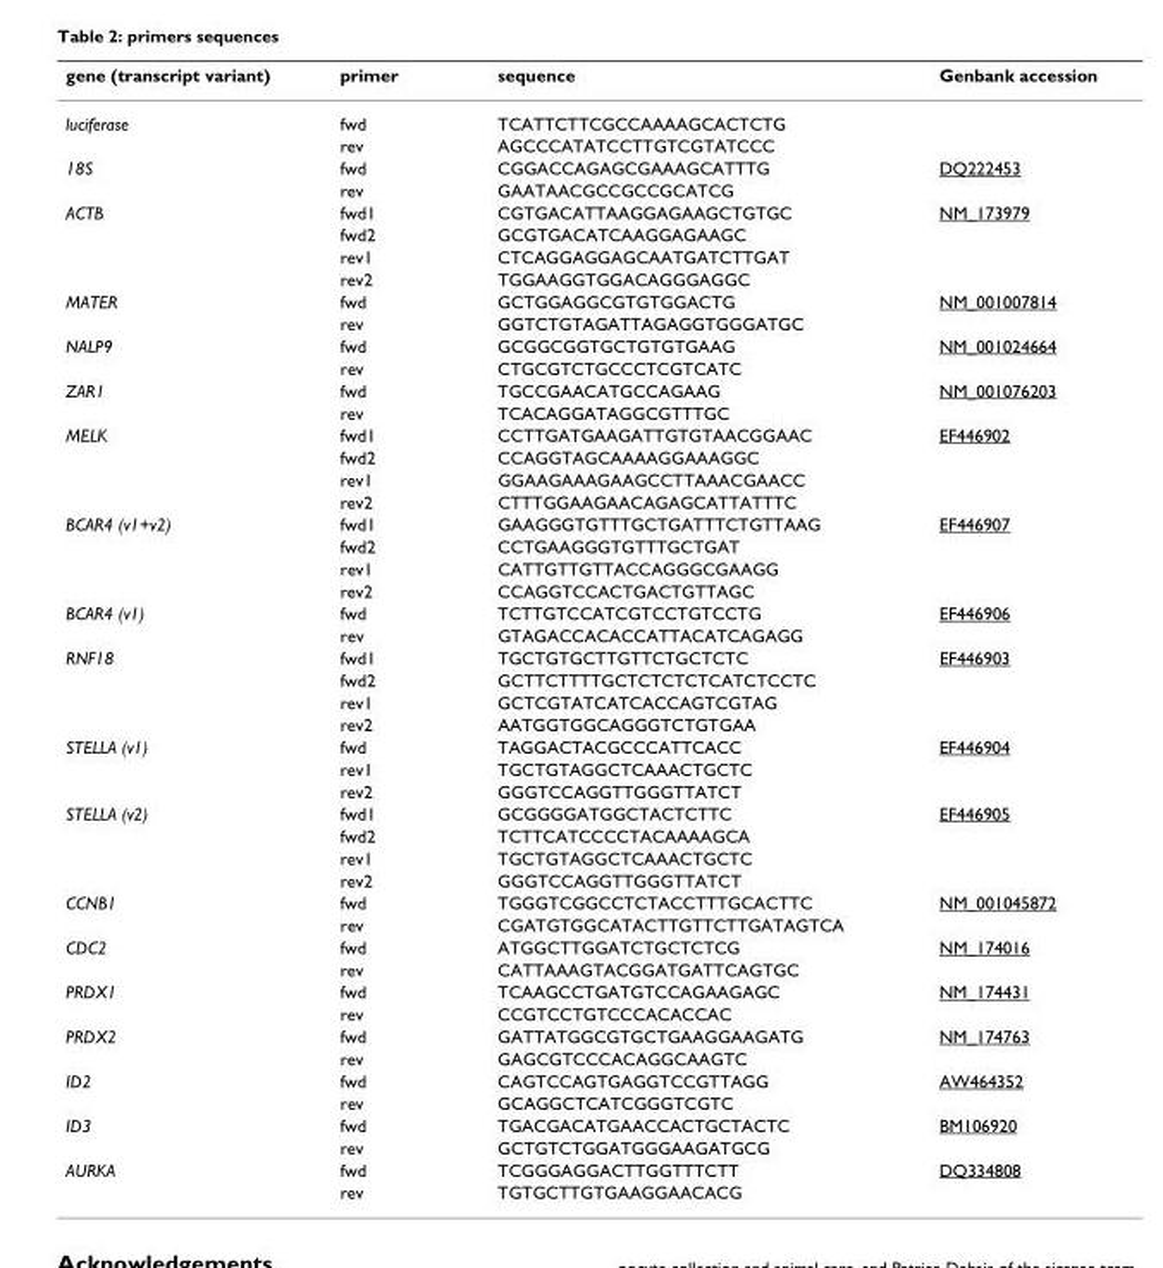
<table><thead><tr><td>gene (transcript variant)</td><td>primer</td><td>sequence</td><td>Genbank accession</td></tr></thead><tbody><tr><td rowspan="2">luciferase</td><td>fwd</td><td>TCATTCTTCGCCAAAAGCACTCTG</td><td></td></tr><tr><td>rev</td><td>AGCCCATATCCTTGTCGTATCCC</td><td></td></tr><tr><td rowspan="2">18S</td><td>fwd</td><td>CGGACCAGAGCGAAAGCATTTG</td><td>DQ222453</td></tr><tr><td>rev</td><td>GAATAACGCCGCCGCATCG</td><td></td></tr><tr><td rowspan="4">ACTB</td><td>fwd1</td><td>CGTGACATTAAGGAGAAGCTGTGC</td><td>NM_173979</td></tr><tr><td>fwd2</td><td>GCGTGACATCAAGGAGAAGC</td><td></td></tr><tr><td>rev1</td><td>CTCAGGAGGAGCAATGATCTTGAT</td><td></td></tr><tr><td>rev2</td><td>TGGAAGGTGGACAGGGAGGC</td><td></td></tr><tr><td rowspan="2">MATER</td><td>fwd</td><td>GCTGGAGGCGTGTGGACTG</td><td>NM_001007814</td></tr><tr><td>rev</td><td>GGTCTGTAGATTAGAGGTGGGATGC</td><td></td></tr><tr><td rowspan="2">NALP9</td><td>fwd</td><td>GCGGCGGTGCTGTGTGAAG</td><td>NM_001024664</td></tr><tr><td>rev</td><td>CTGCGTCTGCCCTCGTCATC</td><td></td></tr><tr><td rowspan="2">ZAR1</td><td>fwd</td><td>TGCCGAACATGCCAGAAG</td><td>NM_001076203</td></tr><tr><td>rev</td><td>TCACAGGATAGGCGTTTGC</td><td></td></tr><tr><td rowspan="4">MELK</td><td>fwd1</td><td>CCTTGATGAAGATTGTGTAACGGAAC</td><td>EF446902</td></tr><tr><td>fwd2</td><td>CCAGGTAGCAAAAGGAAAGGC</td><td></td></tr><tr><td>rev1</td><td>GGAAGAAAGAAGCCTTAAACGAACC</td><td></td></tr><tr><td>rev2</td><td>CTTTGGAAGAACAGAGCATTATTTC</td><td></td></tr><tr><td rowspan="4">BCAR4 (v1+v2)</td><td>fwd1</td><td>GAAGGGTGTTTGCTGATTTCTGTTAAG</td><td>EF446907</td></tr><tr><td>fwd2</td><td>CCTGAAGGGTGTTTGCTGAT</td><td></td></tr><tr><td>rev1</td><td>CATTGTTGTTACCAGGGCGAAGG</td><td></td></tr><tr><td>rev2</td><td>CCAGGTCCACTGACTGTTAGC</td><td></td></tr><tr><td rowspan="2">BCAR4 (v1)</td><td>fwd</td><td>TCTTGTCCATCGTCCTGTCCTG</td><td>EF446906</td></tr><tr><td>rev</td><td>GTAGACCACACCATTACATCAGAGG</td><td></td></tr><tr><td rowspan="4">RNF18</td><td>fwd1</td><td>TGCTGTGCTTGTTCTGCTCTC</td><td>EF446903</td></tr><tr><td>fwd2</td><td>GCTTCTTTTGCTCTCTCTCATCTCCTC</td><td></td></tr><tr><td>rev1</td><td>GCTCGTATCATCACCAGTCGTAG</td><td></td></tr><tr><td>rev2</td><td>AATGGTGGCAGGGTCTGTGAA</td><td></td></tr><tr><td rowspan="3">STELLA (v1)</td><td>fwd</td><td>TAGGACTACGCCCATTCACC</td><td>EF446904</td></tr><tr><td>rev1</td><td>TGCTGTAGGCTCAAACTGCTC</td><td></td></tr><tr><td>rev2</td><td>GGGTCCAGGTTGGGTTATCT</td><td></td></tr><tr><td rowspan="4">STELLA (v2)</td><td>fwd1</td><td>GCGGGGATGGCTACTCTTC</td><td>EF446905</td></tr><tr><td>fwd2</td><td>TCTTCATCCCCTACAAAAGCA</td><td></td></tr><tr><td>rev1</td><td>TGCTGTAGGCTCAAACTGCTC</td><td></td></tr><tr><td>rev2</td><td>GGGTCCAGGTTGGGTTATCT</td><td></td></tr><tr><td rowspan="2">CCNB1</td><td>fwd</td><td>TGGGTCGGCCTCTACCTTTGCACTTC</td><td>NM_001045872</td></tr><tr><td>rev</td><td>CGATGTGGCATACTTGTTCTTGATAGTCA</td><td></td></tr><tr><td rowspan="2">CDC2</td><td>fwd</td><td>ATGGCTTGGATCTGCTCTCG</td><td>NM_174016</td></tr><tr><td>rev</td><td>CATTAAAGTACGGATGATTCAGTGC</td><td></td></tr><tr><td rowspan="2">PRDX1</td><td>fwd</td><td>TCAAGCCTGATGTCCAGAAGAGC</td><td>NM_174431</td></tr><tr><td>rev</td><td>CCGTCCTGTCCCACACCAC</td><td></td></tr><tr><td rowspan="2">PRDX2</td><td>fwd</td><td>GATTATGGCGTGCTGAAGGAAGATG</td><td>NM_174763</td></tr><tr><td>rev</td><td>GAGCGTCCCACAGGCAAGTC</td><td></td></tr><tr><td rowspan="2">ID2</td><td>fwd</td><td>CAGTCCAGTGAGGTCCGTTAGG</td><td>AW464352</td></tr><tr><td>rev</td><td>GCAGGCTCATCGGGTCGTC</td><td></td></tr><tr><td rowspan="2">ID3</td><td>fwd</td><td>TGACGACATGAACCACTGCTACTC</td><td>BM106920</td></tr><tr><td>rev</td><td>GCTGTCTGGATGGGAAGATGCG</td><td></td></tr><tr><td rowspan="2">AURKA</td><td>fwd</td><td>TCGGGAGGACTTGGTTTCTT</td><td>DQ334808</td></tr><tr><td>rev</td><td>TGTGCTTGTGAAGGAACACG</td><td></td></tr></tbody></table>